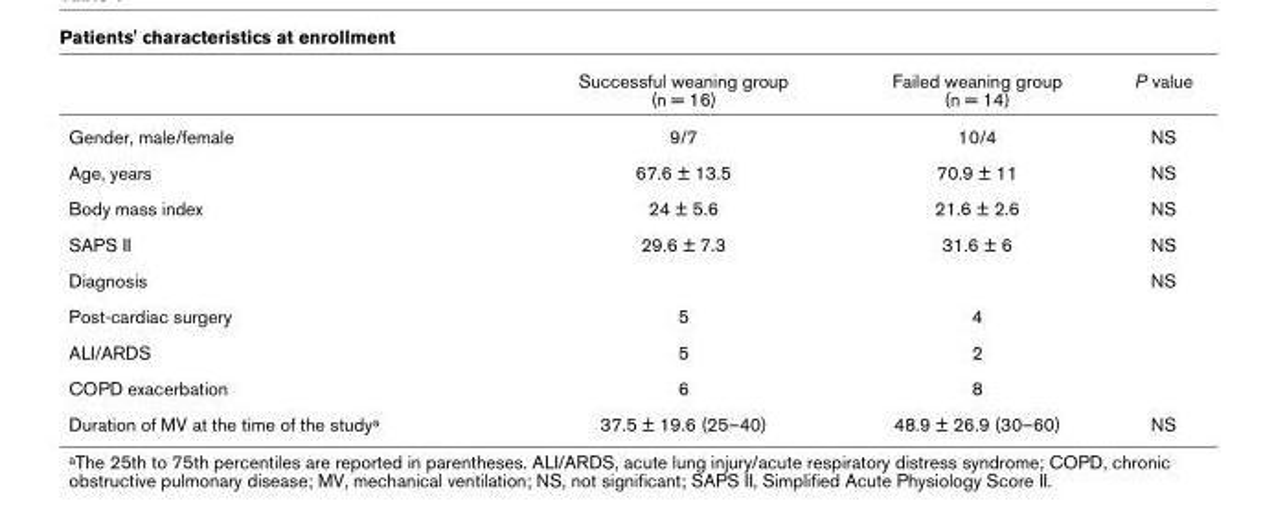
<table><thead><tr><td></td><td>Successful weaning group (n = 16)</td><td>Failed weaning group (n = 14)</td><td>P value</td></tr></thead><tbody><tr><td>Gender, male/female</td><td>9/7</td><td>10/4</td><td>NS</td></tr><tr><td>Age, years</td><td>67.6 ± 13.5</td><td>70.9 ± 11</td><td>NS</td></tr><tr><td>Body mass index</td><td>24 ± 5.6</td><td>21.6 ± 2.6</td><td>NS</td></tr><tr><td>SAPS II</td><td>29.6 ± 7.3</td><td>31.6 ± 6</td><td>NS</td></tr><tr><td>Diagnosis</td><td></td><td></td><td>NS</td></tr><tr><td>Post-cardiac surgery</td><td>5</td><td>4</td><td></td></tr><tr><td>ALI/ARDS</td><td>5</td><td>2</td><td></td></tr><tr><td>COPD exacerbation</td><td>6</td><td>8</td><td></td></tr><tr><td>Duration of MV at the time of the study<sup>a</sup></td><td>37.5 ± 19.6 (25–40)</td><td>48.9 ± 26.9 (30–60)</td><td>NS</td></tr></tbody></table>